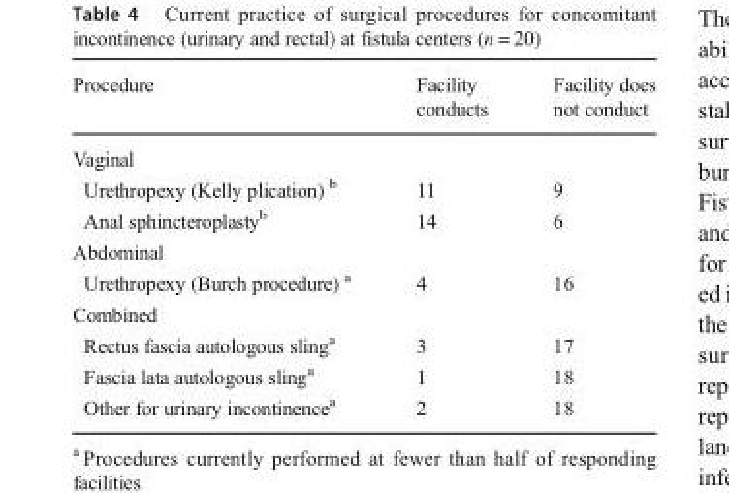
<table><thead><tr><td>Procedure</td><td>Facility conducts</td><td>Facility does not conduct</td></tr></thead><tbody><tr><td colspan="3">Vaginal</td></tr><tr><td>Urethropexy (Kelly plication) <sup>b</sup></td><td>11</td><td>9</td></tr><tr><td>Anal sphincteroplasty<sup>b</sup></td><td>14</td><td>6</td></tr><tr><td colspan="3">Abdominal</td></tr><tr><td>Urethropexy (Burch procedure) <sup>a</sup></td><td>4</td><td>16</td></tr><tr><td colspan="3">Combined</td></tr><tr><td>Rectus fascia autologous sling<sup>a</sup></td><td>3</td><td>17</td></tr><tr><td>Fascia lata autologous sling<sup>a</sup></td><td>1</td><td>18</td></tr><tr><td>Other for urinary incontinence<sup>a</sup></td><td>2</td><td>18</td></tr></tbody></table>